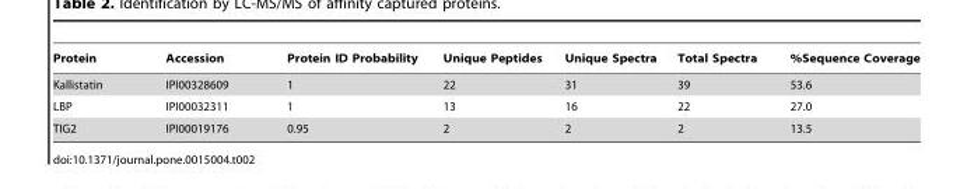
<table><thead><tr><td>Protein</td><td>Accession</td><td>Protein ID Probability</td><td>Unique Peptides</td><td>Unique Spectra</td><td>Total Spectra</td><td>%Sequence Coverage</td></tr></thead><tbody><tr><td>Kallistatin</td><td>IPI00328609</td><td>1</td><td>22</td><td>31</td><td>39</td><td>53.6</td></tr><tr><td>LBP</td><td>IPI00032311</td><td>1</td><td>13</td><td>16</td><td>22</td><td>27.0</td></tr><tr><td>TIG2</td><td>IPI00019176</td><td>0.95</td><td>2</td><td>2</td><td>2</td><td>13.5</td></tr></tbody></table>